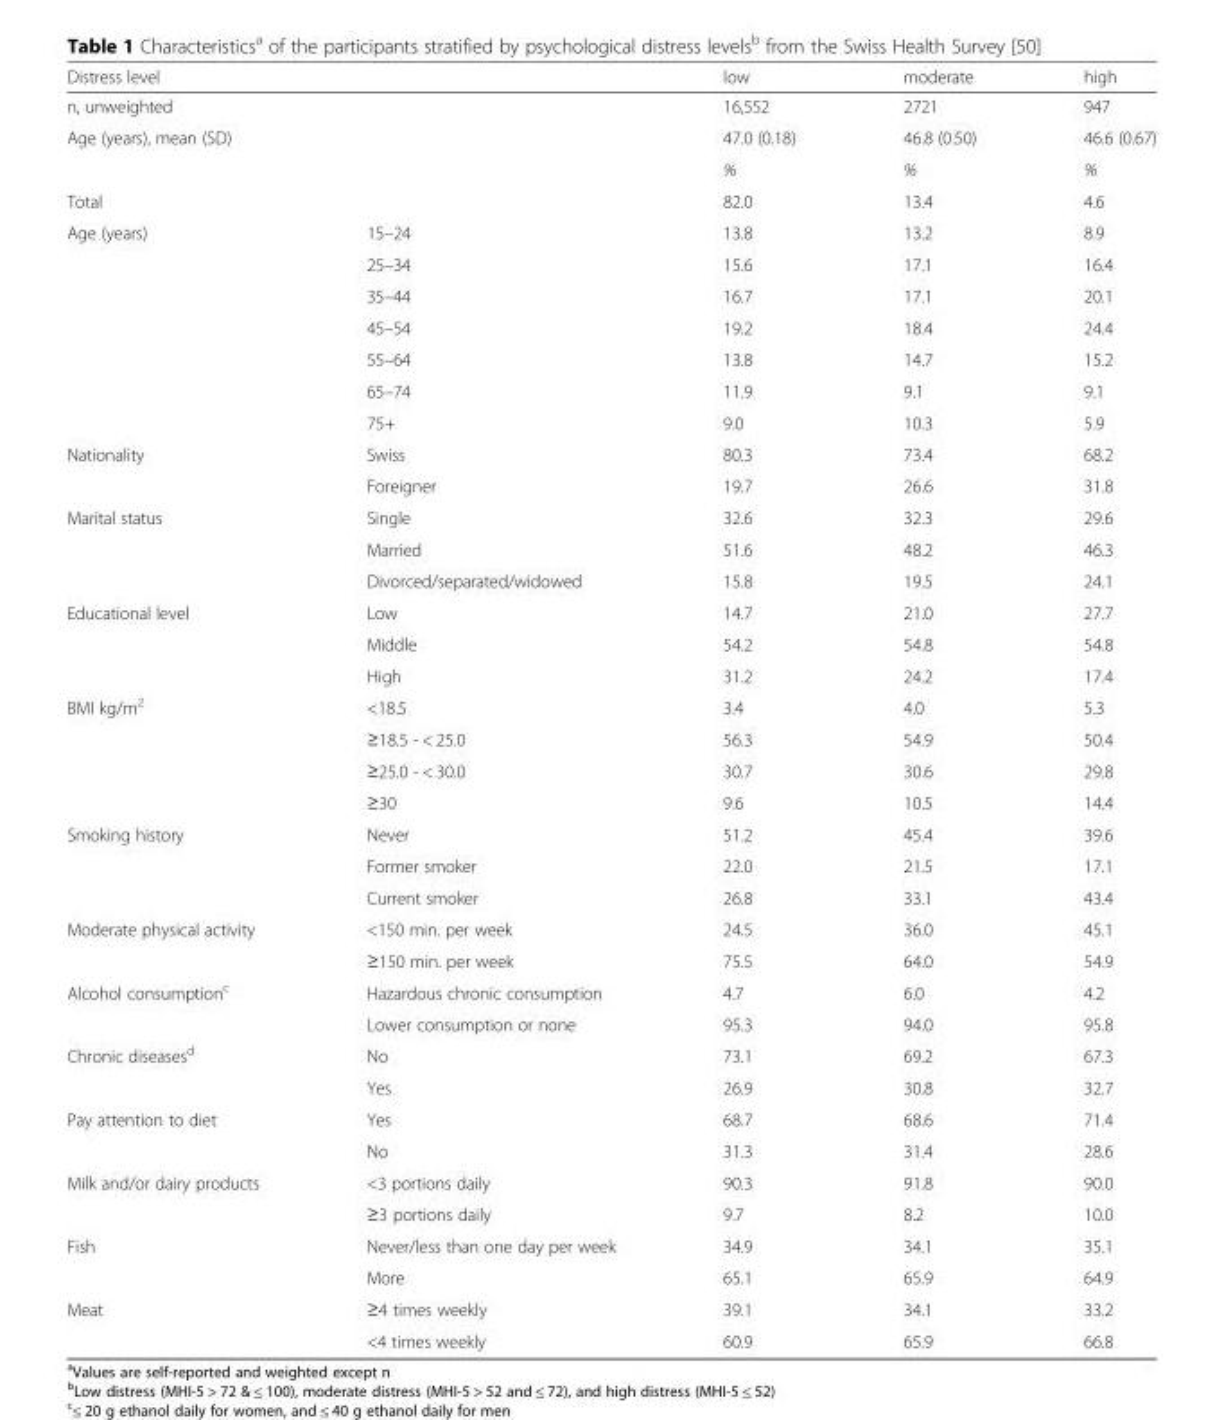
<table><thead><tr><td>Distress level</td><td></td><td>low</td><td>moderate</td><td>high</td></tr></thead><tbody><tr><td>n, unweighted</td><td></td><td>16,552</td><td>2721</td><td>947</td></tr><tr><td rowspan="2">Age (years), mean (SD)</td><td></td><td>47.0 (0.18)</td><td>46.8 (0.50)</td><td>46.6 (0.67)</td></tr><tr><td></td><td>%</td><td>%</td><td>%</td></tr><tr><td>Total</td><td></td><td>82.0</td><td>13.4</td><td>4.6</td></tr><tr><td rowspan="7">Age (years)</td><td>15–24</td><td>13.8</td><td>13.2</td><td>8.9</td></tr><tr><td>25–34</td><td>15.6</td><td>17.1</td><td>16.4</td></tr><tr><td>35–44</td><td>16.7</td><td>17.1</td><td>20.1</td></tr><tr><td>45–54</td><td>19.2</td><td>18.4</td><td>24.4</td></tr><tr><td>55–64</td><td>13.8</td><td>14.7</td><td>15.2</td></tr><tr><td>65–74</td><td>11.9</td><td>9.1</td><td>9.1</td></tr><tr><td>75+</td><td>9.0</td><td>10.3</td><td>5.9</td></tr><tr><td rowspan="2">Nationality</td><td>Swiss</td><td>80.3</td><td>73.4</td><td>68.2</td></tr><tr><td>Foreigner</td><td>19.7</td><td>26.6</td><td>31.8</td></tr><tr><td rowspan="3">Marital status</td><td>Single</td><td>32.6</td><td>32.3</td><td>29.6</td></tr><tr><td>Married</td><td>51.6</td><td>48.2</td><td>46.3</td></tr><tr><td>Divorced/separated/widowed</td><td>15.8</td><td>19.5</td><td>24.1</td></tr><tr><td rowspan="3">Educational level</td><td>Low</td><td>14.7</td><td>21.0</td><td>27.7</td></tr><tr><td>Middle</td><td>54.2</td><td>54.8</td><td>54.8</td></tr><tr><td>High</td><td>31.2</td><td>24.2</td><td>17.4</td></tr><tr><td rowspan="4">BMI kg/m<sup>2</sup></td><td>&lt;18.5</td><td>3.4</td><td>4.0</td><td>5.3</td></tr><tr><td>≥18.5 - &lt; 25.0</td><td>56.3</td><td>54.9</td><td>50.4</td></tr><tr><td>≥25.0 - &lt; 30.0</td><td>30.7</td><td>30.6</td><td>29.8</td></tr><tr><td>≥30</td><td>9.6</td><td>10.5</td><td>14.4</td></tr><tr><td rowspan="3">Smoking history</td><td>Never</td><td>51.2</td><td>45.4</td><td>39.6</td></tr><tr><td>Former smoker</td><td>22.0</td><td>21.5</td><td>17.1</td></tr><tr><td>Current smoker</td><td>26.8</td><td>33.1</td><td>43.4</td></tr><tr><td rowspan="2">Moderate physical activity</td><td>&lt;150 min. per week</td><td>24.5</td><td>36.0</td><td>45.1</td></tr><tr><td>≥150 min. per week</td><td>75.5</td><td>64.0</td><td>54.9</td></tr><tr><td rowspan="2">Alcohol consumption<sup>c</sup></td><td>Hazardous chronic consumption</td><td>4.7</td><td>6.0</td><td>4.2</td></tr><tr><td>Lower consumption or none</td><td>95.3</td><td>94.0</td><td>95.8</td></tr><tr><td rowspan="2">Chronic diseases<sup>d</sup></td><td>No</td><td>73.1</td><td>69.2</td><td>67.3</td></tr><tr><td>Yes</td><td>26.9</td><td>30.8</td><td>32.7</td></tr><tr><td rowspan="2">Pay attention to diet</td><td>Yes</td><td>68.7</td><td>68.6</td><td>71.4</td></tr><tr><td>No</td><td>31.3</td><td>31.4</td><td>28.6</td></tr><tr><td rowspan="2">Milk and/or dairy products</td><td>&lt;3 portions daily</td><td>90.3</td><td>91.8</td><td>90.0</td></tr><tr><td>≥3 portions daily</td><td>9.7</td><td>8.2</td><td>10.0</td></tr><tr><td rowspan="2">Fish</td><td>Never/less than one day per week</td><td>34.9</td><td>34.1</td><td>35.1</td></tr><tr><td>More</td><td>65.1</td><td>65.9</td><td>64.9</td></tr><tr><td rowspan="2">Meat</td><td>≥4 times weekly</td><td>39.1</td><td>34.1</td><td>33.2</td></tr><tr><td>&lt;4 times weekly</td><td>60.9</td><td>65.9</td><td>66.8</td></tr></tbody></table>